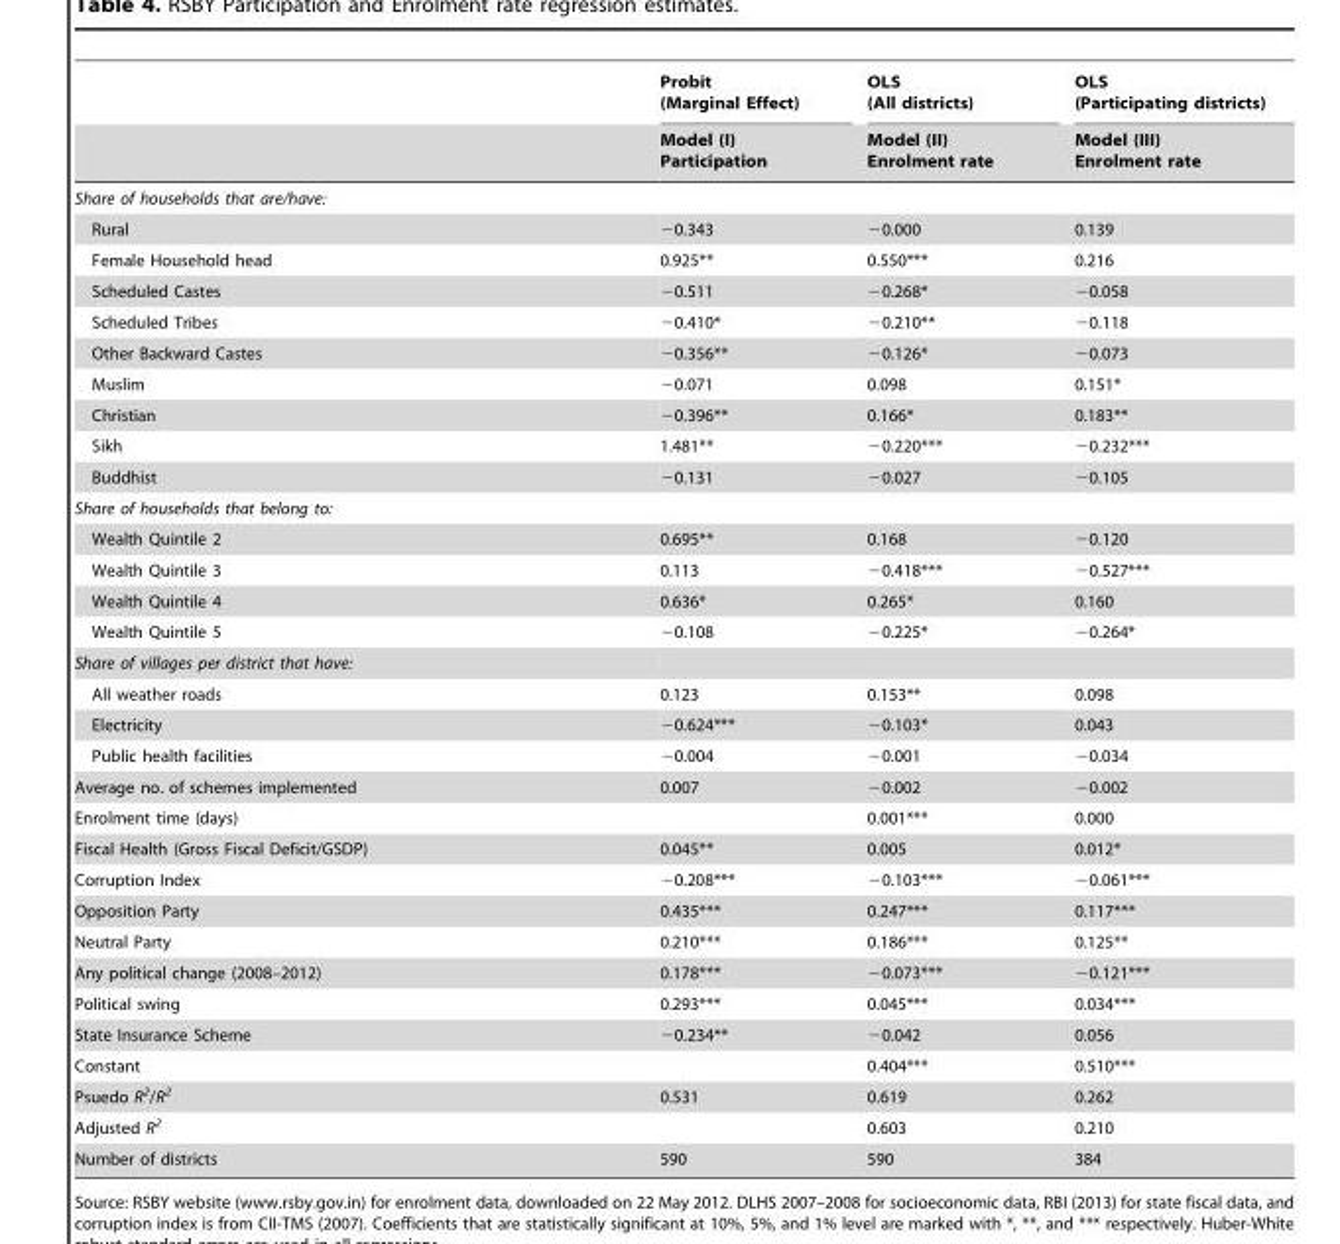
<table><thead><tr><td rowspan="2"></td><td rowspan="2">Probit (Marginal Effect) Model (I) Participation</td><td rowspan="2">OLS (All districts) Model (II) Enrolment rate</td><td rowspan="2">OLS (Participating districts) Model (III) Enrolment rate</td></tr><tr></tr></thead><tbody><tr><td colspan="4">Share of households that are/have:</td></tr><tr><td>Rural</td><td>−0.343</td><td>−0.000</td><td>0.139</td></tr><tr><td>Female Household head</td><td>0.925**</td><td>0.550***</td><td>0.216</td></tr><tr><td>Scheduled Castes</td><td>−0.511</td><td>−0.268*</td><td>−0.058</td></tr><tr><td>Scheduled Tribes</td><td>−0.410*</td><td>−0.210**</td><td>−0.118</td></tr><tr><td>Other Backward Castes</td><td>−0.356**</td><td>−0.126*</td><td>−0.073</td></tr><tr><td>Muslim</td><td>−0.071</td><td>0.098</td><td>0.151*</td></tr><tr><td>Christian</td><td>−0.396**</td><td>0.166*</td><td>0.183**</td></tr><tr><td>Sikh</td><td>1.481**</td><td>−0.220***</td><td>−0.232***</td></tr><tr><td>Buddhist</td><td>−0.131</td><td>−0.027</td><td>−0.105</td></tr><tr><td colspan="4">Share of households that belong to:</td></tr><tr><td>Wealth Quintile 2</td><td>0.695**</td><td>0.168</td><td>−0.120</td></tr><tr><td>Wealth Quintile 3</td><td>0.113</td><td>−0.418***</td><td>−0.527***</td></tr><tr><td>Wealth Quintile 4</td><td>0.636*</td><td>0.265*</td><td>0.160</td></tr><tr><td>Wealth Quintile 5</td><td>−0.108</td><td>−0.225*</td><td>−0.264*</td></tr><tr><td colspan="4">Share of villages per district that have:</td></tr><tr><td>All weather roads</td><td>0.123</td><td>0.153**</td><td>0.098</td></tr><tr><td>Electricity</td><td>−0.624***</td><td>−0.103*</td><td>0.043</td></tr><tr><td>Public health facilities</td><td>−0.004</td><td>−0.001</td><td>−0.034</td></tr><tr><td>Average no. of schemes implemented</td><td>0.007</td><td>−0.002</td><td>−0.002</td></tr><tr><td>Enrolment time (days)</td><td></td><td>0.001***</td><td>0.000</td></tr><tr><td>Fiscal Health (Gross Fiscal Deficit/GSDP)</td><td>0.045**</td><td>0.005</td><td>0.012*</td></tr><tr><td>Corruption Index</td><td>−0.208***</td><td>−0.103***</td><td>−0.061***</td></tr><tr><td>Opposition Party</td><td>0.435***</td><td>0.247***</td><td>0.117***</td></tr><tr><td>Neutral Party</td><td>0.210***</td><td>0.186***</td><td>0.125**</td></tr><tr><td>Any political change (2008–2012)</td><td>0.178***</td><td>−0.073***</td><td>−0.121***</td></tr><tr><td>Political swing</td><td>0.293***</td><td>0.045***</td><td>0.034***</td></tr><tr><td>State Insurance Scheme</td><td>−0.234**</td><td>−0.042</td><td>0.056</td></tr><tr><td>Constant</td><td></td><td>0.404***</td><td>0.510***</td></tr><tr><td>Psuedo R<sup>2</sup>/R<sup>2</sup></td><td>0.531</td><td>0.619</td><td>0.262</td></tr><tr><td>Adjusted R<sup>2</sup></td><td></td><td>0.603</td><td>0.210</td></tr><tr><td>Number of districts</td><td>590</td><td>590</td><td>384</td></tr></tbody></table>